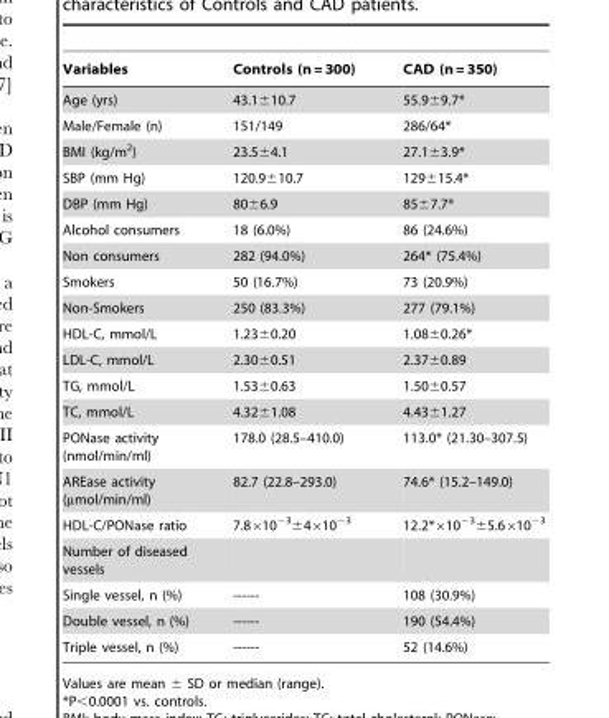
<table><thead><tr><td>Variables</td><td>Controls (n = 300)</td><td>CAD (n = 350)</td></tr></thead><tbody><tr><td>Age (yrs)</td><td>43.1±10.7</td><td>55.9±9.7*</td></tr><tr><td>Male/Female (n)</td><td>151/149</td><td>286/64*</td></tr><tr><td>BMI (kg/m<sup>2</sup>)</td><td>23.5±4.1</td><td>27.1±3.9*</td></tr><tr><td>SBP (mm Hg)</td><td>120.9±10.7</td><td>129±15.4*</td></tr><tr><td>DBP (mm Hg)</td><td>80±6.9</td><td>85±7.7*</td></tr><tr><td>Alcohol consumers</td><td>18 (6.0%)</td><td>86 (24.6%)</td></tr><tr><td>Non consumers</td><td>282 (94.0%)</td><td>264* (75.4%)</td></tr><tr><td>Smokers</td><td>50 (16.7%)</td><td>73 (20.9%)</td></tr><tr><td>Non-Smokers</td><td>250 (83.3%)</td><td>277 (79.1%)</td></tr><tr><td>HDL-C, mmol/L</td><td>1.23±0.20</td><td>1.08±0.26*</td></tr><tr><td>LDL-C, mmol/L</td><td>2.30±0.51</td><td>2.37±0.89</td></tr><tr><td>TG, mmol/L</td><td>1.53±0.63</td><td>1.50±0.57</td></tr><tr><td>TC, mmol/L</td><td>4.32±1.08</td><td>4.43±1.27</td></tr><tr><td>PONase activity (nmol/min/ml)</td><td>178.0 (28.5–410.0)</td><td>113.0* (21.30–307.5)</td></tr><tr><td>AREase activity (µmol/min/ml)</td><td>82.7 (22.8–293.0)</td><td>74.6* (15.2–149.0)</td></tr><tr><td>HDL-C/PONase ratio</td><td>7.8×10<sup>−3</sup>±4×10<sup>−3</sup></td><td>12.2*×10<sup>−3</sup>±5.6×10<sup>−3</sup></td></tr><tr><td colspan="3">Number of diseased vessels</td></tr><tr><td>Single vessel, n (%)</td><td>------</td><td>108 (30.9%)</td></tr><tr><td>Double vessel, n (%)</td><td>------</td><td>190 (54.4%)</td></tr><tr><td>Triple vessel, n (%)</td><td>------</td><td>52 (14.6%)</td></tr></tbody></table>